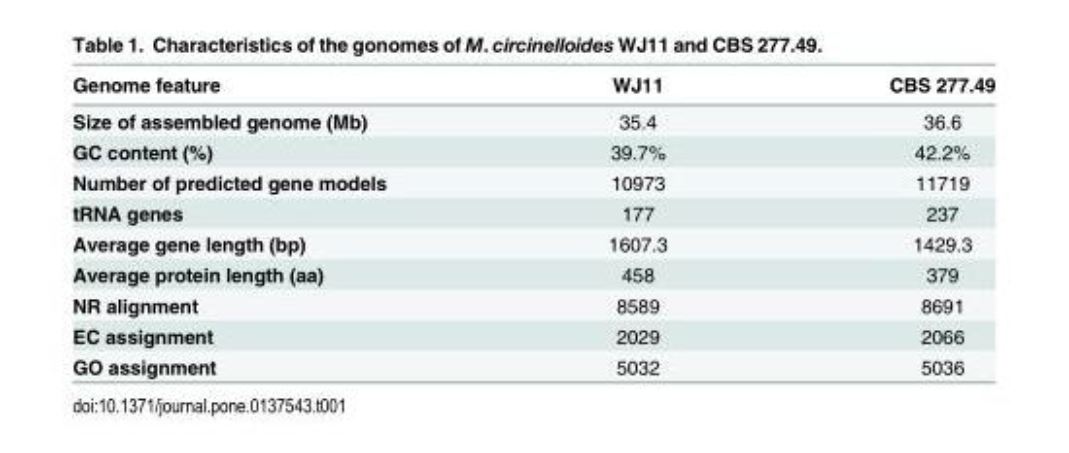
<table><thead><tr><td>Genome feature</td><td>WJ11</td><td>CBS 277.49</td></tr></thead><tbody><tr><td>Size of assembled genome (Mb)</td><td>35.4</td><td>36.6</td></tr><tr><td>GC content (%)</td><td>39.7%</td><td>42.2%</td></tr><tr><td>Number of predicted gene models</td><td>10973</td><td>11719</td></tr><tr><td>tRNA genes</td><td>177</td><td>237</td></tr><tr><td>Average gene length (bp)</td><td>1607.3</td><td>1429.3</td></tr><tr><td>Average protein length (aa)</td><td>458</td><td>379</td></tr><tr><td>NR alignment</td><td>8589</td><td>8691</td></tr><tr><td>EC assignment</td><td>2029</td><td>2066</td></tr><tr><td>GO assignment</td><td>5032</td><td>5036</td></tr></tbody></table>